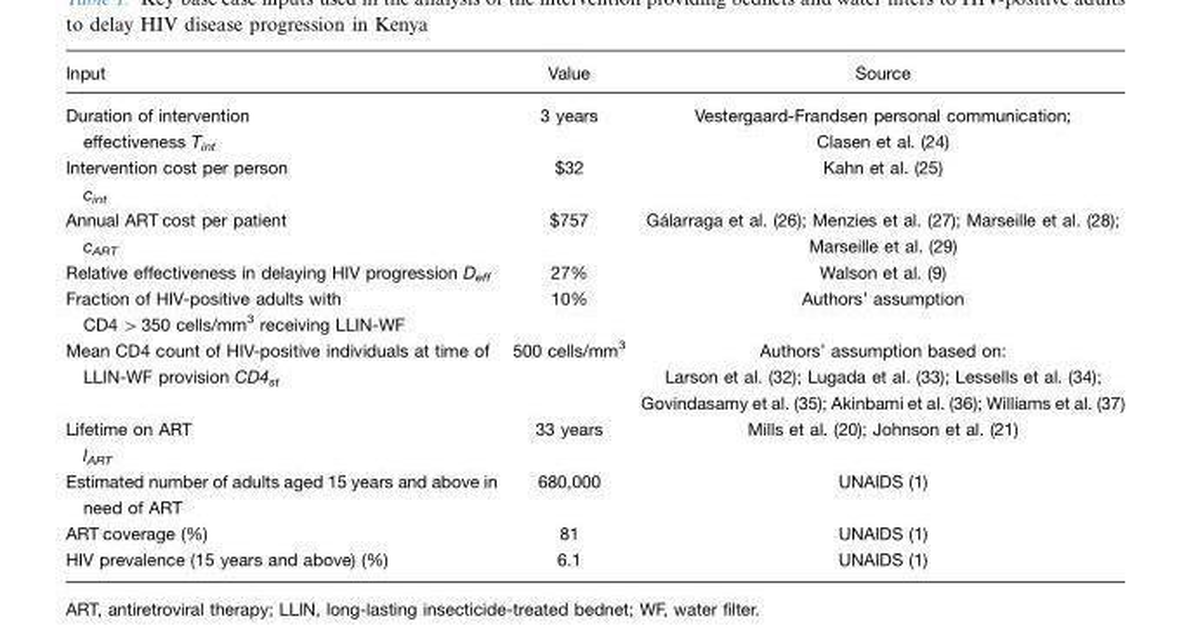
<table><thead><tr><td>Input</td><td>Value</td><td>Source</td></tr></thead><tbody><tr><td>Duration of intervention effectiveness T<sub>int</sub></td><td>3 years</td><td>Vestergaard-Frandsen personal communication; Clasen et al. (24)</td></tr><tr><td>Intervention cost per person c<sub>int</sub></td><td>$32</td><td>Kahn et al. (25)</td></tr><tr><td>Annual ART cost per patient c<sub>ART</sub></td><td>$757</td><td>Ga´ larraga et al. (26); Menzies et al. (27); Marseille et al. (28); Marseille et al. (29)</td></tr><tr><td>Relative effectiveness in delaying HIV progression D<sub>eff</sub></td><td>27%</td><td>Walson et al. (9)</td></tr><tr><td>Fraction of HIV-positive adults with CD4 &gt;350 cells/mm<sup>3</sup> receiving LLIN-WF</td><td>10%</td><td>Authors’ assumption</td></tr><tr><td>Mean CD4 count of HIV-positive individuals at time of LLIN-WF provision CD4<sub>st</sub></td><td>500 cells/mm<sup>3</sup></td><td>Authors’ assumption based on: Larson et al. (32); Lugada et al. (33); Lessells et al. (34); Govindasamy et al. (35); Akinbami et al. (36); Williams et al. (37)</td></tr><tr><td>Lifetime on ART l<sub>ART</sub></td><td>33 years</td><td>Mills et al. (20); Johnson et al. (21)</td></tr><tr><td>Estimated number of adults aged 15 years and above in need of ART</td><td>680,000</td><td>UNAIDS (1)</td></tr><tr><td>ART coverage (%)</td><td>81</td><td>UNAIDS (1)</td></tr><tr><td>HIV prevalence (15 years and above) (%)</td><td>6.1</td><td>UNAIDS (1)</td></tr></tbody></table>